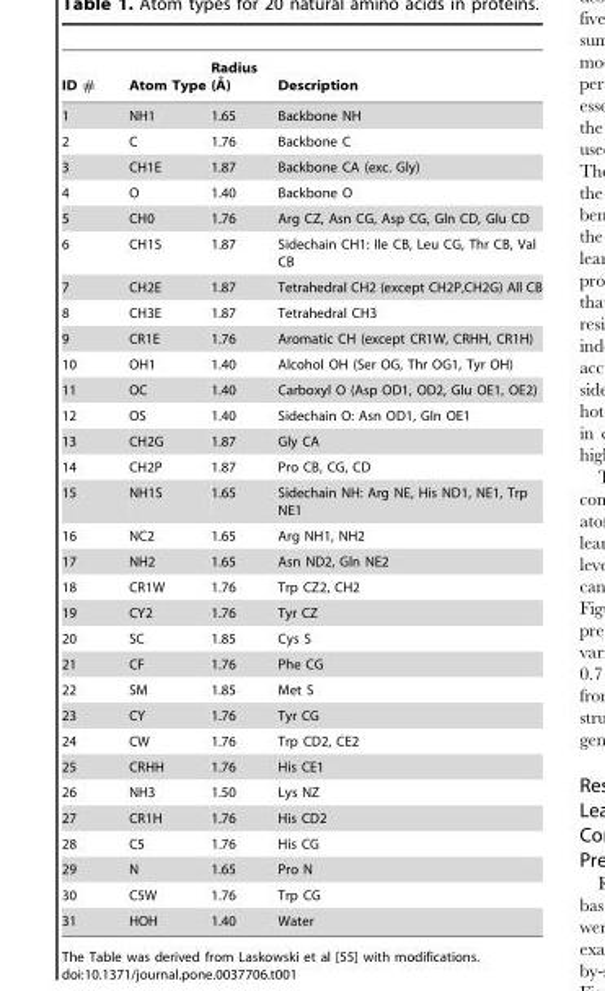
<table><thead><tr><td>ID #</td><td>Atom Type</td><td>Radius (A˚ )</td><td>Description</td></tr></thead><tbody><tr><td>1</td><td>NH1</td><td>1.65</td><td>Backbone NH</td></tr><tr><td>2</td><td>C</td><td>1.76</td><td>Backbone C</td></tr><tr><td>3</td><td>CH1E</td><td>1.87</td><td>Backbone CA (exc. Gly)</td></tr><tr><td>4</td><td>O</td><td>1.40</td><td>Backbone O</td></tr><tr><td>5</td><td>CH0</td><td>1.76</td><td>Arg CZ, Asn CG, Asp CG, Gln CD, Glu CD</td></tr><tr><td>6</td><td>CH1S</td><td>1.87</td><td>Sidechain CH1: Ile CB, Leu CG, Thr CB, Val CB</td></tr><tr><td>7</td><td>CH2E</td><td>1.87</td><td>Tetrahedral CH2 (except CH2P,CH2G) All CB</td></tr><tr><td>8</td><td>CH3E</td><td>1.87</td><td>Tetrahedral CH3</td></tr><tr><td>9</td><td>CR1E</td><td>1.76</td><td>Aromatic CH (except CR1W, CRHH, CR1H)</td></tr><tr><td>10</td><td>OH1</td><td>1.40</td><td>Alcohol OH (Ser OG, Thr OG1, Tyr OH)</td></tr><tr><td>11</td><td>OC</td><td>1.40</td><td>Carboxyl O (Asp OD1, OD2, Glu OE1, OE2)</td></tr><tr><td>12</td><td>OS</td><td>1.40</td><td>Sidechain O: Asn OD1, Gln OE1</td></tr><tr><td>13</td><td>CH2G</td><td>1.87</td><td>Gly CA</td></tr><tr><td>14</td><td>CH2P</td><td>1.87</td><td>Pro CB, CG, CD</td></tr><tr><td>15</td><td>NH1S</td><td>1.65</td><td>Sidechain NH: Arg NE, His ND1, NE1, Trp NE1</td></tr><tr><td>16</td><td>NC2</td><td>1.65</td><td>Arg NH1, NH2</td></tr><tr><td>17</td><td>NH2</td><td>1.65</td><td>Asn ND2, Gln NE2</td></tr><tr><td>18</td><td>CR1W</td><td>1.76</td><td>Trp CZ2, CH2</td></tr><tr><td>19</td><td>CY2</td><td>1.76</td><td>Tyr CZ</td></tr><tr><td>20</td><td>SC</td><td>1.85</td><td>Cys S</td></tr><tr><td>21</td><td>CF</td><td>1.76</td><td>Phe CG</td></tr><tr><td>22</td><td>SM</td><td>1.85</td><td>Met S</td></tr><tr><td>23</td><td>CY</td><td>1.76</td><td>Tyr CG</td></tr><tr><td>24</td><td>CW</td><td>1.76</td><td>Trp CD2, CE2</td></tr><tr><td>25</td><td>CRHH</td><td>1.76</td><td>His CE1</td></tr><tr><td>26</td><td>NH3</td><td>1.50</td><td>Lys NZ</td></tr><tr><td>27</td><td>CR1H</td><td>1.76</td><td>His CD2</td></tr><tr><td>28</td><td>C5</td><td>1.76</td><td>His CG</td></tr><tr><td>29</td><td>N</td><td>1.65</td><td>Pro N</td></tr><tr><td>30</td><td>C5W</td><td>1.76</td><td>Trp CG</td></tr><tr><td>31</td><td>HOH</td><td>1.40</td><td>Water</td></tr></tbody></table>